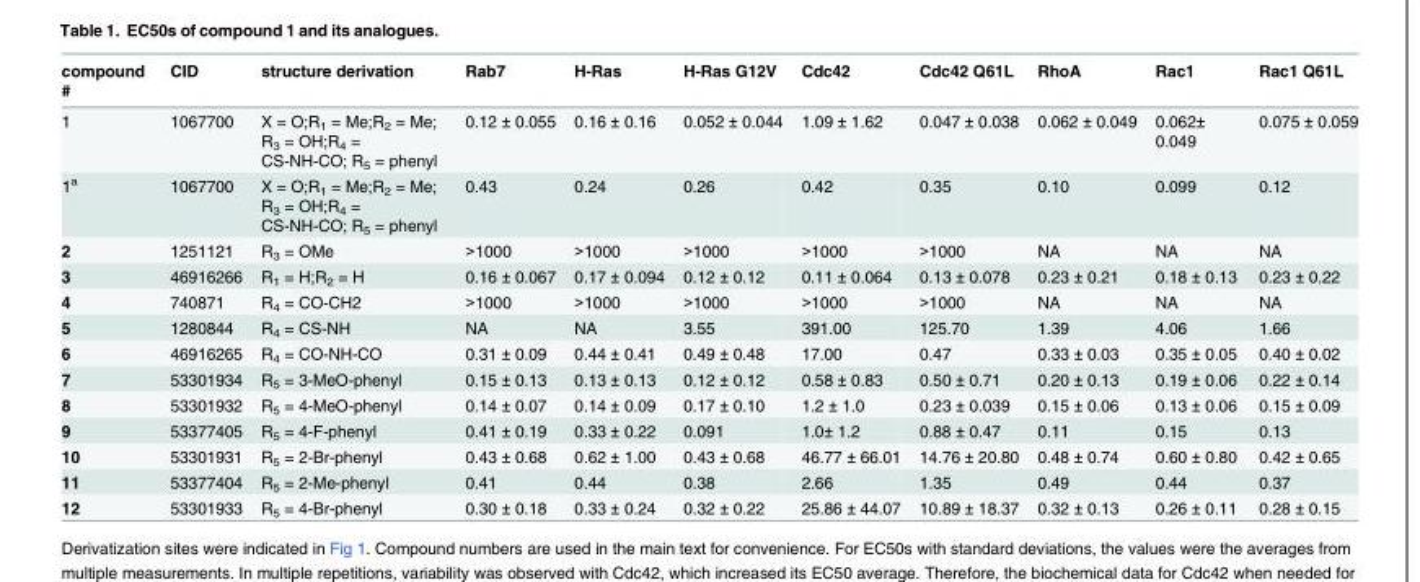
<table><thead><tr><td>compound #</td><td>CID</td><td>structure derivation</td><td>Rab7</td><td>H-Ras</td><td>H-Ras G12V</td><td>Cdc42</td><td>Cdc42 Q61L</td><td>RhoA</td><td>Rac1</td><td>Rac1 Q61L</td></tr></thead><tbody><tr><td>1</td><td>1067700</td><td>X = O;R<sub>1</sub> = Me;R<sub>2</sub> = Me; R<sub>3</sub> = OH;R<sub>4</sub> = CS-NH-CO; R<sub>5</sub> = phenyl</td><td>0.12 ± 0.055</td><td>0.16 ± 0.16</td><td>0.052 ± 0.044</td><td>1.09 ± 1.62</td><td>0.047 ± 0.038</td><td>0.062 ± 0.049</td><td>0.062± 0.049</td><td>0.075 ± 0.059</td></tr><tr><td>1<sup>a</sup></td><td>1067700</td><td>X = O;R<sub>1</sub> = Me;R<sub>2</sub> = Me; R<sub>3</sub> = OH;R<sub>4</sub> = CS-NH-CO; R<sub>5</sub> = phenyl</td><td>0.43</td><td>0.24</td><td>0.26</td><td>0.42</td><td>0.35</td><td>0.10</td><td>0.099</td><td>0.12</td></tr><tr><td>2</td><td>1251121</td><td>R<sub>3</sub> = OMe</td><td>&gt;1000</td><td>&gt;1000</td><td>&gt;1000</td><td>&gt;1000</td><td>&gt;1000</td><td>NA</td><td>NA</td><td>NA</td></tr><tr><td>3</td><td>46916266</td><td>R<sub>1</sub> = H;R<sub>2</sub> = H</td><td>0.16 ± 0.067</td><td>0.17 ± 0.094</td><td>0.12 ± 0.12</td><td>0.11 ± 0.064</td><td>0.13 ± 0.078</td><td>0.23 ± 0.21</td><td>0.18 ± 0.13</td><td>0.23 ± 0.22</td></tr><tr><td>4</td><td>740871</td><td>R<sub>4</sub> = CO-CH2</td><td>&gt;1000</td><td>&gt;1000</td><td>&gt;1000</td><td>&gt;1000</td><td>&gt;1000</td><td>NA</td><td>NA</td><td>NA</td></tr><tr><td>5</td><td>1280844</td><td>R<sub>4</sub> = CS-NH</td><td>NA</td><td>NA</td><td>3.55</td><td>391.00</td><td>125.70</td><td>1.39</td><td>4.06</td><td>1.66</td></tr><tr><td>6</td><td>46916265</td><td>R<sub>4</sub> = CO-NH-CO</td><td>0.31 ± 0.09</td><td>0.44 ± 0.41</td><td>0.49 ± 0.48</td><td>17.00</td><td>0.47</td><td>0.33 ± 0.03</td><td>0.35 ± 0.05</td><td>0.40 ± 0.02</td></tr><tr><td>7</td><td>53301934</td><td>R<sub>5</sub> = 3-MeO-phenyl</td><td>0.15 ± 0.13</td><td>0.13 ± 0.13</td><td>0.12 ± 0.12</td><td>0.58 ± 0.83</td><td>0.50 ± 0.71</td><td>0.20 ± 0.13</td><td>0.19 ± 0.06</td><td>0.22 ± 0.14</td></tr><tr><td>8</td><td>53301932</td><td>R<sub>5</sub> = 4-MeO-phenyl</td><td>0.14 ± 0.07</td><td>0.14 ± 0.09</td><td>0.17 ± 0.10</td><td>1.2 ± 1.0</td><td>0.23 ± 0.039</td><td>0.15 ± 0.06</td><td>0.13 ± 0.06</td><td>0.15 ± 0.09</td></tr><tr><td>9</td><td>53377405</td><td>R<sub>5</sub> = 4-F-phenyl</td><td>0.41 ± 0.19</td><td>0.33 ± 0.22</td><td>0.091</td><td>1.0± 1.2</td><td>0.88 ± 0.47</td><td>0.11</td><td>0.15</td><td>0.13</td></tr><tr><td>10</td><td>53301931</td><td>R<sub>5</sub> = 2-Br-phenyl</td><td>0.43 ± 0.68</td><td>0.62 ± 1.00</td><td>0.43 ± 0.68</td><td>46.77 ± 66.01</td><td>14.76 ± 20.80</td><td>0.48 ± 0.74</td><td>0.60 ± 0.80</td><td>0.42 ± 0.65</td></tr><tr><td>11</td><td>53377404</td><td>R<sub>5</sub> = 2-Me-phenyl</td><td>0.41</td><td>0.44</td><td>0.38</td><td>2.66</td><td>1.35</td><td>0.49</td><td>0.44</td><td>0.37</td></tr><tr><td>12</td><td>53301933</td><td>R<sub>5</sub> = 4-Br-phenyl</td><td>0.30 ± 0.18</td><td>0.33 ± 0.24</td><td>0.32 ± 0.22</td><td>25.86 ± 44.07</td><td>10.89 ± 18.37</td><td>0.32 ± 0.13</td><td>0.26 ± 0.11</td><td>0.28 ± 0.15</td></tr></tbody></table>